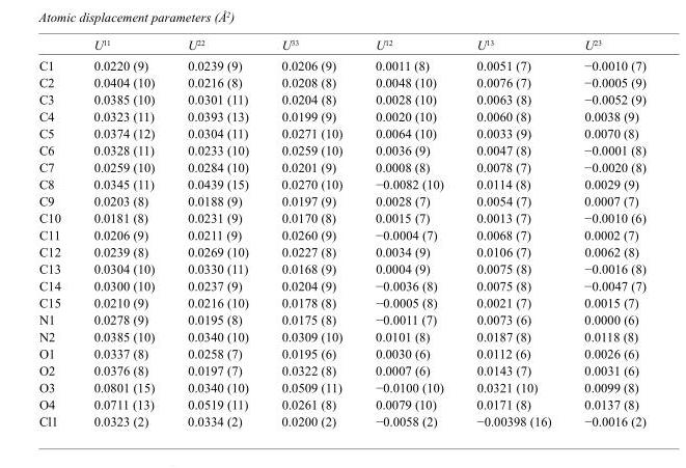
<table><thead><tr><td></td><td>U<sup>11</sup></td><td>U<sup>22</sup></td><td>U<sup>33</sup></td><td>U<sup>12</sup></td><td>U<sup>13</sup></td><td>U<sup>23</sup></td></tr></thead><tbody><tr><td>C1</td><td>0.0220 (9)</td><td>0.0239 (9)</td><td>0.0206 (9)</td><td>0.0011 (8)</td><td>0.0051 (7)</td><td>−0.0010 (7)</td></tr><tr><td>C2</td><td>0.0404 (10)</td><td>0.0216 (8)</td><td>0.0208 (8)</td><td>0.0048 (10)</td><td>0.0076 (7)</td><td>−0.0005 (9)</td></tr><tr><td>C3</td><td>0.0385 (10)</td><td>0.0301 (11)</td><td>0.0204 (8)</td><td>0.0028 (10)</td><td>0.0063 (8)</td><td>−0.0052 (9)</td></tr><tr><td>C4</td><td>0.0323 (11)</td><td>0.0393 (13)</td><td>0.0199 (9)</td><td>0.0020 (10)</td><td>0.0060 (8)</td><td>0.0038 (9)</td></tr><tr><td>C5</td><td>0.0374 (12)</td><td>0.0304 (11)</td><td>0.0271 (10)</td><td>0.0064 (10)</td><td>0.0033 (9)</td><td>0.0070 (8)</td></tr><tr><td>C6</td><td>0.0328 (11)</td><td>0.0233 (10)</td><td>0.0259 (10)</td><td>0.0036 (9)</td><td>0.0047 (8)</td><td>−0.0001 (8)</td></tr><tr><td>C7</td><td>0.0259 (10)</td><td>0.0284 (10)</td><td>0.0201 (9)</td><td>0.0008 (8)</td><td>0.0078 (7)</td><td>−0.0020 (8)</td></tr><tr><td>C8</td><td>0.0345 (11)</td><td>0.0439 (15)</td><td>0.0270 (10)</td><td>−0.0082 (10)</td><td>0.0114 (8)</td><td>0.0029 (9)</td></tr><tr><td>C9</td><td>0.0203 (8)</td><td>0.0188 (9)</td><td>0.0197 (9)</td><td>0.0028 (7)</td><td>0.0054 (7)</td><td>0.0007 (7)</td></tr><tr><td>C10</td><td>0.0181 (8)</td><td>0.0231 (9)</td><td>0.0170 (8)</td><td>0.0015 (7)</td><td>0.0013 (7)</td><td>−0.0010 (6)</td></tr><tr><td>C11</td><td>0.0206 (9)</td><td>0.0211 (9)</td><td>0.0260 (9)</td><td>−0.0004 (7)</td><td>0.0068 (7)</td><td>0.0002 (7)</td></tr><tr><td>C12</td><td>0.0239 (8)</td><td>0.0269 (10)</td><td>0.0227 (8)</td><td>0.0034 (9)</td><td>0.0106 (7)</td><td>0.0062 (8)</td></tr><tr><td>C13</td><td>0.0304 (10)</td><td>0.0330 (11)</td><td>0.0168 (9)</td><td>0.0004 (9)</td><td>0.0075 (8)</td><td>−0.0016 (8)</td></tr><tr><td>C14</td><td>0.0300 (10)</td><td>0.0237 (9)</td><td>0.0204 (9)</td><td>−0.0036 (8)</td><td>0.0075 (8)</td><td>−0.0047 (7)</td></tr><tr><td>C15</td><td>0.0210 (9)</td><td>0.0216 (10)</td><td>0.0178 (8)</td><td>−0.0005 (8)</td><td>0.0021 (7)</td><td>0.0015 (7)</td></tr><tr><td>N1</td><td>0.0278 (9)</td><td>0.0195 (8)</td><td>0.0175 (8)</td><td>−0.0011 (7)</td><td>0.0073 (6)</td><td>0.0000 (6)</td></tr><tr><td>N2</td><td>0.0385 (10)</td><td>0.0340 (10)</td><td>0.0309 (10)</td><td>0.0101 (8)</td><td>0.0187 (8)</td><td>0.0118 (8)</td></tr><tr><td>O1</td><td>0.0337 (8)</td><td>0.0258 (7)</td><td>0.0195 (6)</td><td>0.0030 (6)</td><td>0.0112 (6)</td><td>0.0026 (6)</td></tr><tr><td>O2</td><td>0.0376 (8)</td><td>0.0197 (7)</td><td>0.0322 (8)</td><td>0.0007 (6)</td><td>0.0143 (7)</td><td>0.0031 (6)</td></tr><tr><td>O3</td><td>0.0801 (15)</td><td>0.0340 (10)</td><td>0.0509 (11)</td><td>−0.0100 (10)</td><td>0.0321 (10)</td><td>0.0099 (8)</td></tr><tr><td>O4</td><td>0.0711 (13)</td><td>0.0519 (11)</td><td>0.0261 (8)</td><td>0.0079 (10)</td><td>0.0171 (8)</td><td>0.0137 (8)</td></tr><tr><td>Cl1</td><td>0.0323 (2)</td><td>0.0334 (2)</td><td>0.0200 (2)</td><td>−0.0058 (2)</td><td>−0.00398 (16)</td><td>−0.0016 (2)</td></tr></tbody></table>